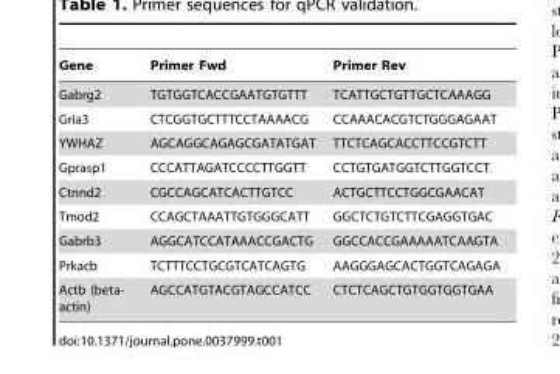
<table><thead><tr><td>Gene</td><td>Primer Fwd</td><td>Primer Rev</td></tr></thead><tbody><tr><td>Gabrg2</td><td>TGTGGTCACCGAATGTGTTT</td><td>TCATTGCTGTTGCTCAAAGG</td></tr><tr><td>Gria3</td><td>CTCGGTGCTTTCCTAAAACG</td><td>CCAAACACGTCTGGGAGAAT</td></tr><tr><td>YWHAZ</td><td>AGCAGGCAGAGCGATATGAT</td><td>TTCTCAGCACCTTCCGTCTT</td></tr><tr><td>Gprasp1</td><td>CCCATTAGATCCCCTTGGTT</td><td>CCTGTGATGGTCTTGGTCCT</td></tr><tr><td>Ctnnd2</td><td>CGCCAGCATCACTTGTCC</td><td>ACTGCTTCCTGGCGAACAT</td></tr><tr><td>Tmod2</td><td>CCAGCTAAATTGTGGGCATT</td><td>GGCTCTGTCTTCGAGGTGAC</td></tr><tr><td>Gabrb3</td><td>AGGCATCCATAAACCGACTG</td><td>GGCCACCGAAAAATCAAGTA</td></tr><tr><td>Prkacb</td><td>TCTTTCCTGCGTCATCAGTG</td><td>AAGGGAGCACTGGTCAGAGA</td></tr><tr><td>Actb (beta- actin)</td><td>AGCCATGTACGTAGCCATCC</td><td>CTCTCAGCTGTGGTGGTGAA</td></tr></tbody></table>